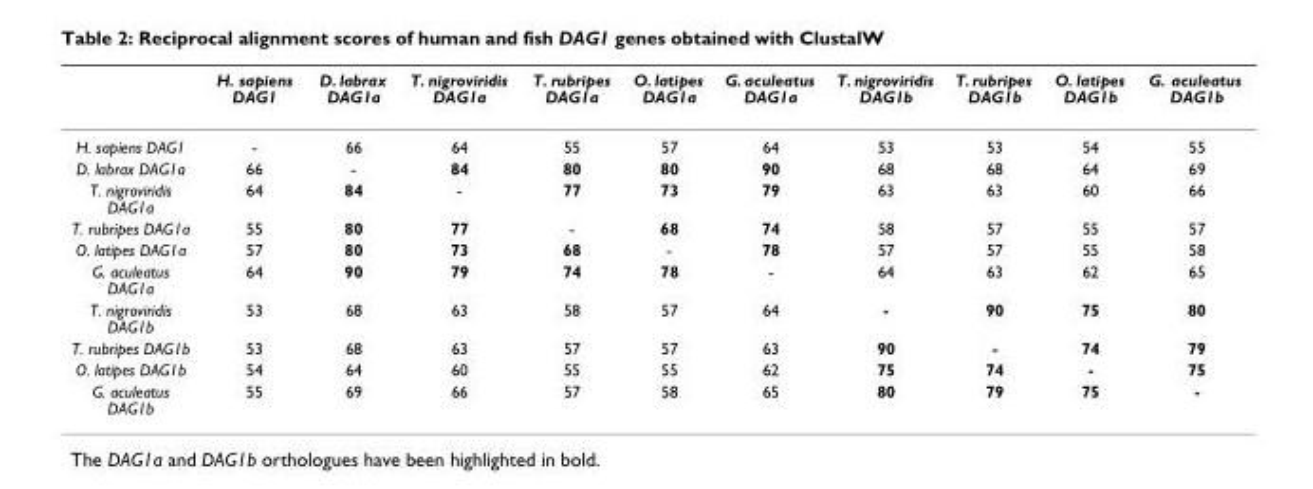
<table><thead><tr><td></td><td>H. sapiens DAG1</td><td>D. labrax DAG1a</td><td>T. nigroviridis DAG1a</td><td>T. rubripes DAG1a</td><td>O. latipes DAG1a</td><td>G. aculeatus DAG1a</td><td>T. nigroviridis DAG1b</td><td>T. rubripes DAG1b</td><td>O. latipes DAG1b</td><td>G. aculeatus DAG1b</td></tr></thead><tbody><tr><td>H. sapiens DAG1</td><td>-</td><td>66</td><td>64</td><td>55</td><td>57</td><td>64</td><td>53</td><td>53</td><td>54</td><td>55</td></tr><tr><td>D. labrax DAG1a</td><td>66</td><td>-</td><td>84</td><td>80</td><td>80</td><td>90</td><td>68</td><td>68</td><td>64</td><td>69</td></tr><tr><td>T. nigroviridis DAG1a</td><td>64</td><td>84</td><td>-</td><td>77</td><td>73</td><td>79</td><td>63</td><td>63</td><td>60</td><td>66</td></tr><tr><td>T. rubripes DAG1a</td><td>55</td><td>80</td><td>77</td><td>-</td><td>68</td><td>74</td><td>58</td><td>57</td><td>55</td><td>57</td></tr><tr><td>O. latipes DAG1a</td><td>57</td><td>80</td><td>73</td><td>68</td><td>-</td><td>78</td><td>57</td><td>57</td><td>55</td><td>58</td></tr><tr><td>G. aculeatus DAG1a</td><td>64</td><td>90</td><td>79</td><td>74</td><td>78</td><td>-</td><td>64</td><td>63</td><td>62</td><td>65</td></tr><tr><td>T. nigroviridis DAG1b</td><td>53</td><td>68</td><td>63</td><td>58</td><td>57</td><td>64</td><td>-</td><td>90</td><td>75</td><td>80</td></tr><tr><td>T. rubripes DAG1b</td><td>53</td><td>68</td><td>63</td><td>57</td><td>57</td><td>63</td><td>90</td><td>-</td><td>74</td><td>79</td></tr><tr><td>O. latipes DAG1b</td><td>54</td><td>64</td><td>60</td><td>55</td><td>55</td><td>62</td><td>75</td><td>74</td><td>-</td><td>75</td></tr><tr><td>G. aculeatus DAG1b</td><td>55</td><td>69</td><td>66</td><td>57</td><td>58</td><td>65</td><td>80</td><td>79</td><td>75</td><td>-</td></tr></tbody></table>